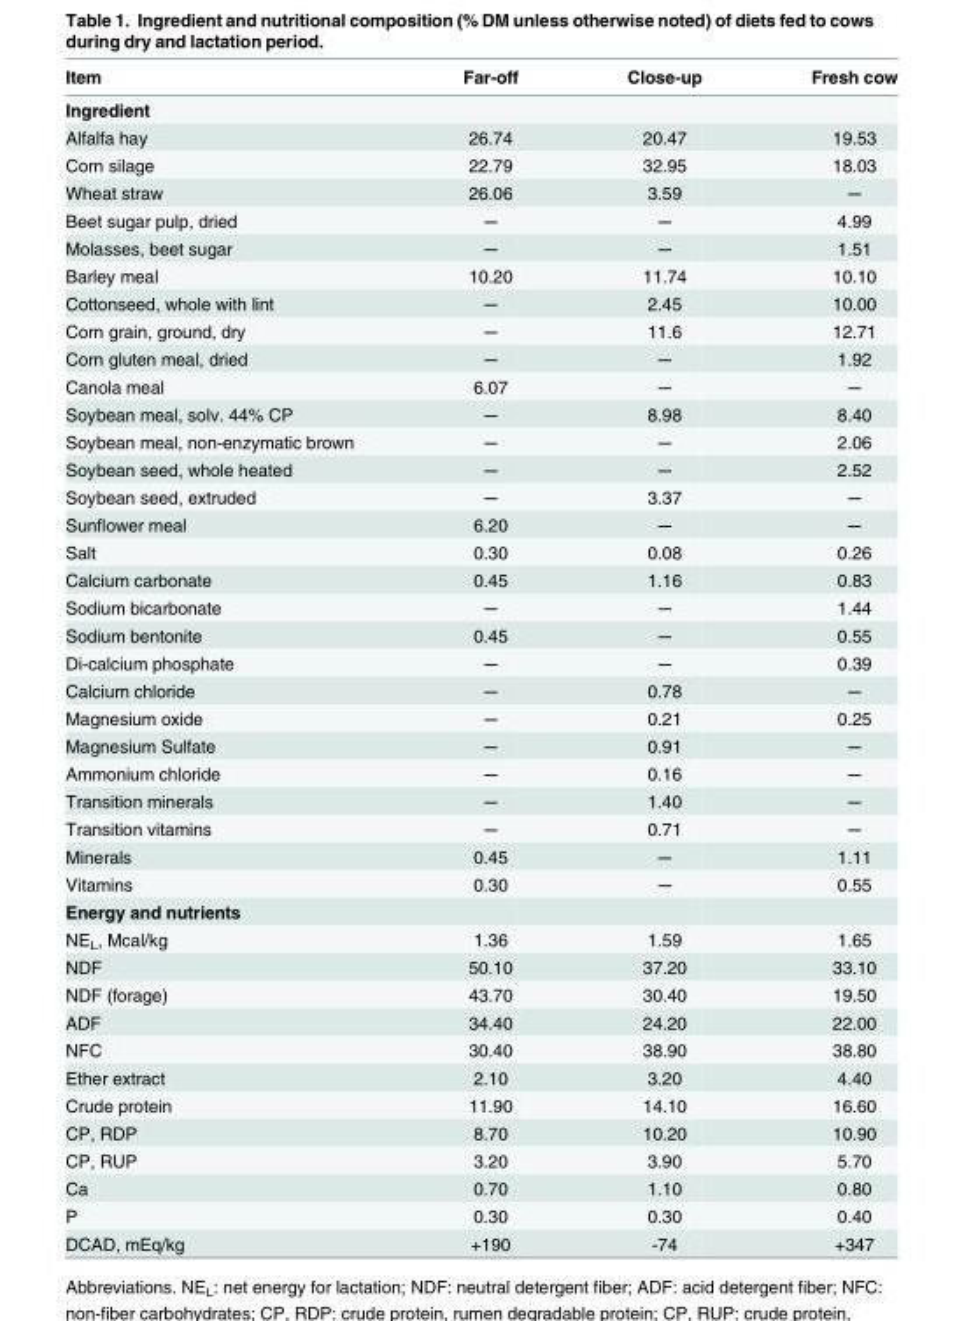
<table><thead><tr><td>Item</td><td>Far-off</td><td>Close-up</td><td>Fresh cow</td></tr></thead><tbody><tr><td colspan="4">Ingredient</td></tr><tr><td>Alfalfa hay</td><td>26.74</td><td>20.47</td><td>19.53</td></tr><tr><td>Corn silage</td><td>22.79</td><td>32.95</td><td>18.03</td></tr><tr><td>Wheat straw</td><td>26.06</td><td>3.59</td><td>─</td></tr><tr><td>Beet sugar pulp, dried</td><td>─</td><td>─</td><td>4.99</td></tr><tr><td>Molasses, beet sugar</td><td>─</td><td>─</td><td>1.51</td></tr><tr><td>Barley meal</td><td>10.20</td><td>11.74</td><td>10.10</td></tr><tr><td>Cottonseed, whole with lint</td><td>─</td><td>2.45</td><td>10.00</td></tr><tr><td>Corn grain, ground, dry</td><td>─</td><td>11.6</td><td>12.71</td></tr><tr><td>Corn gluten meal, dried</td><td>─</td><td>─</td><td>1.92</td></tr><tr><td>Canola meal</td><td>6.07</td><td>─</td><td>─</td></tr><tr><td>Soybean meal, solv. 44% CP</td><td>─</td><td>8.98</td><td>8.40</td></tr><tr><td>Soybean meal, non-enzymatic brown</td><td>─</td><td>─</td><td>2.06</td></tr><tr><td>Soybean seed, whole heated</td><td>─</td><td>─</td><td>2.52</td></tr><tr><td>Soybean seed, extruded</td><td>─</td><td>3.37</td><td>─</td></tr><tr><td>Sunflower meal</td><td>6.20</td><td>─</td><td>─</td></tr><tr><td>Salt</td><td>0.30</td><td>0.08</td><td>0.26</td></tr><tr><td>Calcium carbonate</td><td>0.45</td><td>1.16</td><td>0.83</td></tr><tr><td>Sodium bicarbonate</td><td>─</td><td>─</td><td>1.44</td></tr><tr><td>Sodium bentonite</td><td>0.45</td><td>─</td><td>0.55</td></tr><tr><td>Di-calcium phosphate</td><td>─</td><td>─</td><td>0.39</td></tr><tr><td>Calcium chloride</td><td>─</td><td>0.78</td><td>─</td></tr><tr><td>Magnesium oxide</td><td>─</td><td>0.21</td><td>0.25</td></tr><tr><td>Magnesium Sulfate</td><td>─</td><td>0.91</td><td>─</td></tr><tr><td>Ammonium chloride</td><td>─</td><td>0.16</td><td>─</td></tr><tr><td>Transition minerals</td><td>─</td><td>1.40</td><td>─</td></tr><tr><td>Transition vitamins</td><td>─</td><td>0.71</td><td>─</td></tr><tr><td>Minerals</td><td>0.45</td><td>─</td><td>1.11</td></tr><tr><td>Vitamins</td><td>0.30</td><td>─</td><td>0.55</td></tr><tr><td colspan="4">Energy and nutrients</td></tr><tr><td>NE<sub>L</sub>, Mcal/kg</td><td>1.36</td><td>1.59</td><td>1.65</td></tr><tr><td>NDF</td><td>50.10</td><td>37.20</td><td>33.10</td></tr><tr><td>NDF (forage)</td><td>43.70</td><td>30.40</td><td>19.50</td></tr><tr><td>ADF</td><td>34.40</td><td>24.20</td><td>22.00</td></tr><tr><td>NFC</td><td>30.40</td><td>38.90</td><td>38.80</td></tr><tr><td>Ether extract</td><td>2.10</td><td>3.20</td><td>4.40</td></tr><tr><td>Crude protein</td><td>11.90</td><td>14.10</td><td>16.60</td></tr><tr><td>CP, RDP</td><td>8.70</td><td>10.20</td><td>10.90</td></tr><tr><td>CP, RUP</td><td>3.20</td><td>3.90</td><td>5.70</td></tr><tr><td>Ca</td><td>0.70</td><td>1.10</td><td>0.80</td></tr><tr><td>P</td><td>0.30</td><td>0.30</td><td>0.40</td></tr><tr><td>DCAD, mEq/kg</td><td>+190</td><td>-74</td><td>+347</td></tr></tbody></table>